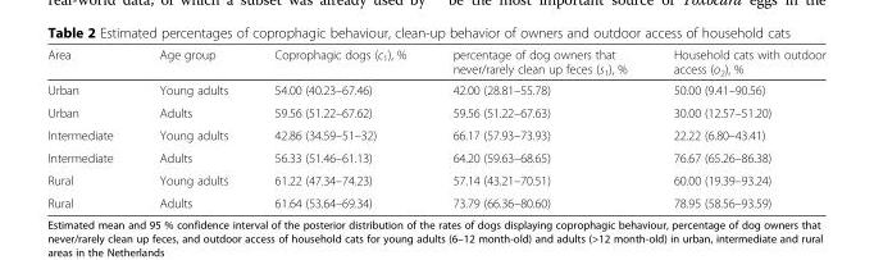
<table><thead><tr><td>Area</td><td>Age group</td><td>Coprophagic dogs (c<sub>1</sub>), %</td><td>percentage of dog owners that never/rarely clean up feces (s<sub>1</sub>), %</td><td>Household cats with outdoor access (o<sub>2</sub>), %</td></tr></thead><tbody><tr><td>Urban</td><td>Young adults</td><td>54.00 (40.23–67.46)</td><td>42.00 (28.81–55.78)</td><td>50.00 (9.41–90.56)</td></tr><tr><td>Urban</td><td>Adults</td><td>59.56 (51.22–67.62)</td><td>59.56 (51.22–67.63)</td><td>30.00 (12.57–51.20)</td></tr><tr><td>Intermediate</td><td>Young adults</td><td>42.86 (34.59–51–32)</td><td>66.17 (57.93–73.93)</td><td>22.22 (6.80–43.41)</td></tr><tr><td>Intermediate</td><td>Adults</td><td>56.33 (51.46–61.13)</td><td>64.20 (59.63–68.65)</td><td>76.67 (65.26–86.38)</td></tr><tr><td>Rural</td><td>Young adults</td><td>61.22 (47.34–74.23)</td><td>57.14 (43.21–70.51)</td><td>60.00 (19.39–93.24)</td></tr><tr><td>Rural</td><td>Adults</td><td>61.64 (53.64–69.34)</td><td>73.79 (66.36–80.60)</td><td>78.95 (58.56–93.59)</td></tr></tbody></table>